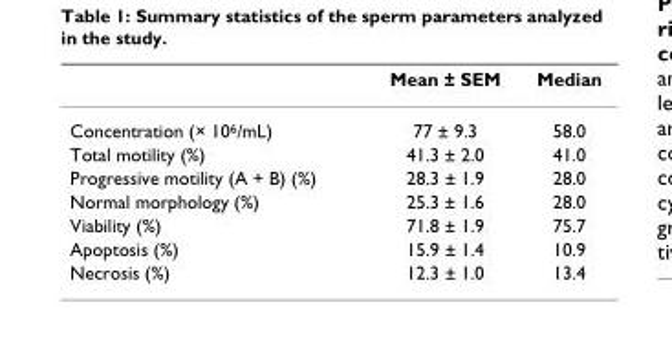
<table><thead><tr><td></td><td>Mean ± SEM</td><td>Median</td></tr></thead><tbody><tr><td>Concentration (× 10<sup>6</sup>/mL)</td><td>77 ± 9.3</td><td>58.0</td></tr><tr><td>Total motility (%)</td><td>41.3 ± 2.0</td><td>41.0</td></tr><tr><td>Progressive motility (A + B) (%)</td><td>28.3 ± 1.9</td><td>28.0</td></tr><tr><td>Normal morphology (%)</td><td>25.3 ± 1.6</td><td>28.0</td></tr><tr><td>Viability (%)</td><td>71.8 ± 1.9</td><td>75.7</td></tr><tr><td>Apoptosis (%)</td><td>15.9 ± 1.4</td><td>10.9</td></tr><tr><td>Necrosis (%)</td><td>12.3 ± 1.0</td><td>13.4</td></tr></tbody></table>